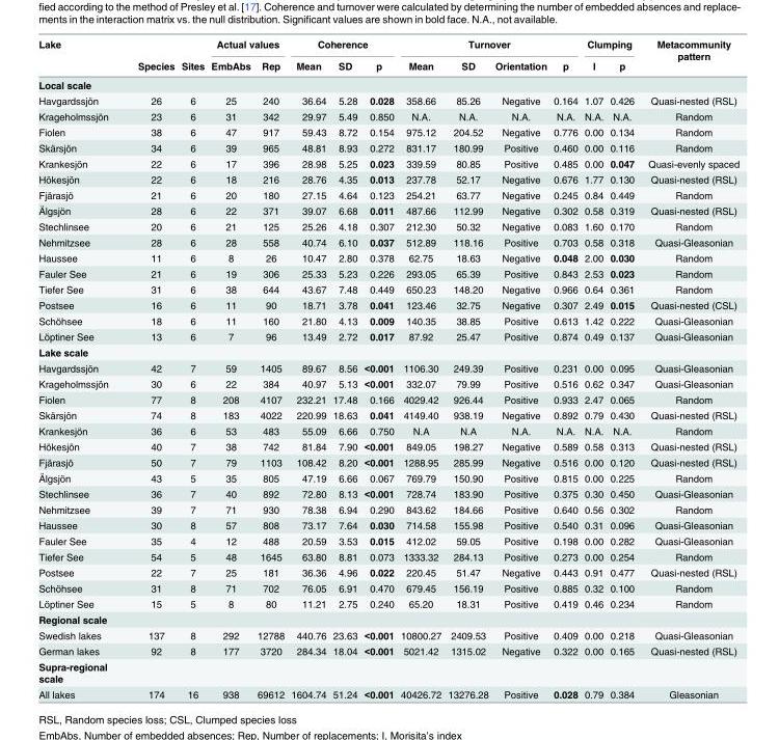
<table><thead><tr><td rowspan="2">Lake</td><td rowspan="2">Species</td><td rowspan="2">Sites</td><td colspan="2">Actual values</td><td colspan="3">Coherence</td><td colspan="4">Turnover</td><td colspan="2">Clumping</td><td rowspan="2">Metacommunity pattern</td></tr><tr><td>EmbAbs</td><td>Rep</td><td>Mean</td><td>SD</td><td>p</td><td>Mean</td><td>SD</td><td>Orientation</td><td>p</td><td>I</td><td>p</td></tr></thead><tbody><tr><td colspan="15">Local scale</td></tr><tr><td>Havgardssjön</td><td>26</td><td>6</td><td>25</td><td>240</td><td>36.64</td><td>5.28</td><td>0.028</td><td>358.66</td><td>85.26</td><td>Negative</td><td>0.164</td><td>1.07</td><td>0.426</td><td>Quasi-nested (RSL)</td></tr><tr><td>Krageholmssjön</td><td>23</td><td>6</td><td>31</td><td>342</td><td>29.97</td><td>5.49</td><td>0.850</td><td>N.A.</td><td>N.A.</td><td>N.A.</td><td>N.A.</td><td>N.A.</td><td>N.A.</td><td>Random</td></tr><tr><td>Fiolen</td><td>38</td><td>6</td><td>47</td><td>917</td><td>59.43</td><td>8.72</td><td>0.154</td><td>975.12</td><td>204.52</td><td>Negative</td><td>0.776</td><td>0.00</td><td>0.134</td><td>Random</td></tr><tr><td>Skärsjön</td><td>34</td><td>6</td><td>39</td><td>965</td><td>48.81</td><td>8.93</td><td>0.272</td><td>831.17</td><td>180.99</td><td>Positive</td><td>0.460</td><td>0.00</td><td>0.116</td><td>Random</td></tr><tr><td>Krankesjön</td><td>22</td><td>6</td><td>17</td><td>396</td><td>28.98</td><td>5.25</td><td>0.023</td><td>339.59</td><td>80.85</td><td>Positive</td><td>0.485</td><td>0.00</td><td>0.047</td><td>Quasi-evenly spaced</td></tr><tr><td>Hökesjön</td><td>22</td><td>6</td><td>18</td><td>216</td><td>28.76</td><td>4.35</td><td>0.013</td><td>237.78</td><td>52.17</td><td>Negative</td><td>0.676</td><td>1.77</td><td>0.130</td><td>Quasi-nested (RSL)</td></tr><tr><td>Fjärasjö</td><td>21</td><td>6</td><td>20</td><td>180</td><td>27.15</td><td>4.64</td><td>0.123</td><td>254.21</td><td>63.77</td><td>Negative</td><td>0.245</td><td>0.84</td><td>0.449</td><td>Random</td></tr><tr><td>Älgsjön</td><td>28</td><td>6</td><td>22</td><td>371</td><td>39.07</td><td>6.68</td><td>0.011</td><td>487.66</td><td>112.99</td><td>Negative</td><td>0.302</td><td>0.58</td><td>0.319</td><td>Quasi-nested (RSL)</td></tr><tr><td>Stechlinsee</td><td>20</td><td>6</td><td>21</td><td>125</td><td>25.26</td><td>4.18</td><td>0.307</td><td>212.30</td><td>50.32</td><td>Negative</td><td>0.083</td><td>1.60</td><td>0.170</td><td>Random</td></tr><tr><td>Nehmitzsee</td><td>28</td><td>6</td><td>28</td><td>558</td><td>40.74</td><td>6.10</td><td>0.037</td><td>512.89</td><td>118.16</td><td>Positive</td><td>0.703</td><td>0.58</td><td>0.318</td><td>Quasi-Gleasonian</td></tr><tr><td>Haussee</td><td>11</td><td>6</td><td>8</td><td>26</td><td>10.47</td><td>2.80</td><td>0.378</td><td>62.75</td><td>18.63</td><td>Negative</td><td>0.048</td><td>2.00</td><td>0.030</td><td>Random</td></tr><tr><td>Fauler See</td><td>21</td><td>6</td><td>19</td><td>306</td><td>25.33</td><td>5.23</td><td>0.226</td><td>293.05</td><td>65.39</td><td>Positive</td><td>0.843</td><td>2.53</td><td>0.023</td><td>Random</td></tr><tr><td>Tiefer See</td><td>31</td><td>6</td><td>38</td><td>644</td><td>43.67</td><td>7.48</td><td>0.449</td><td>650.23</td><td>148.20</td><td>Negative</td><td>0.966</td><td>0.64</td><td>0.361</td><td>Random</td></tr><tr><td>Postsee</td><td>16</td><td>6</td><td>11</td><td>90</td><td>18.71</td><td>3.78</td><td>0.041</td><td>123.46</td><td>32.75</td><td>Negative</td><td>0.307</td><td>2.49</td><td>0.015</td><td>Quasi-nested (CSL)</td></tr><tr><td>Schöhsee</td><td>18</td><td>6</td><td>11</td><td>160</td><td>21.80</td><td>4.13</td><td>0.009</td><td>140.35</td><td>38.85</td><td>Positive</td><td>0.613</td><td>1.42</td><td>0.222</td><td>Quasi-Gleasonian</td></tr><tr><td>Löptiner See</td><td>13</td><td>6</td><td>7</td><td>96</td><td>13.49</td><td>2.72</td><td>0.017</td><td>87.92</td><td>25.47</td><td>Positive</td><td>0.874</td><td>0.49</td><td>0.137</td><td>Quasi-Gleasonian</td></tr><tr><td colspan="15">Lake scale</td></tr><tr><td>Havgardssjön</td><td>42</td><td>7</td><td>59</td><td>1405</td><td>89.67</td><td>8.56</td><td>&lt;0.001</td><td>1106.30</td><td>249.39</td><td>Positive</td><td>0.231</td><td>0.00</td><td>0.095</td><td>Quasi-Gleasonian</td></tr><tr><td>Krageholmssjön</td><td>30</td><td>6</td><td>22</td><td>384</td><td>40.97</td><td>5.13</td><td>&lt;0.001</td><td>332.07</td><td>79.99</td><td>Positive</td><td>0.516</td><td>0.62</td><td>0.347</td><td>Quasi-Gleasonian</td></tr><tr><td>Fiolen</td><td>77</td><td>8</td><td>208</td><td>4107</td><td>232.21</td><td>17.48</td><td>0.166</td><td>4029.42</td><td>926.44</td><td>Positive</td><td>0.933</td><td>2.47</td><td>0.065</td><td>Random</td></tr><tr><td>Skärsjön</td><td>74</td><td>8</td><td>183</td><td>4022</td><td>220.99</td><td>18.63</td><td>0.041</td><td>4149.40</td><td>938.19</td><td>Negative</td><td>0.892</td><td>0.79</td><td>0.430</td><td>Quasi-nested (RSL)</td></tr><tr><td>Krankesjön</td><td>36</td><td>6</td><td>53</td><td>483</td><td>55.09</td><td>6.66</td><td>0.750</td><td>N.A</td><td>N.A</td><td>N.A.</td><td>N.A.</td><td>N.A.</td><td>N.A.</td><td>Random</td></tr><tr><td>Hökesjön</td><td>40</td><td>7</td><td>38</td><td>742</td><td>81.84</td><td>7.90</td><td>&lt;0.001</td><td>849.05</td><td>198.27</td><td>Negative</td><td>0.589</td><td>0.58</td><td>0.313</td><td>Quasi-nested (RSL)</td></tr><tr><td>Fjärasjö</td><td>50</td><td>7</td><td>79</td><td>1103</td><td>108.42</td><td>8.20</td><td>&lt;0.001</td><td>1288.95</td><td>285.99</td><td>Negative</td><td>0.516</td><td>0.00</td><td>0.120</td><td>Quasi-nested (RSL)</td></tr><tr><td>Älgsjön</td><td>43</td><td>5</td><td>35</td><td>805</td><td>47.19</td><td>6.66</td><td>0.067</td><td>769.79</td><td>150.90</td><td>Positive</td><td>0.815</td><td>0.00</td><td>0.225</td><td>Random</td></tr><tr><td>Stechlinsee</td><td>36</td><td>7</td><td>40</td><td>892</td><td>72.80</td><td>8.13</td><td>&lt;0.001</td><td>728.74</td><td>183.90</td><td>Positive</td><td>0.375</td><td>0.30</td><td>0.450</td><td>Quasi-Gleasonian</td></tr><tr><td>Nehmitzsee</td><td>39</td><td>7</td><td>71</td><td>930</td><td>78.38</td><td>6.94</td><td>0.290</td><td>843.62</td><td>184.66</td><td>Positive</td><td>0.640</td><td>0.56</td><td>0.302</td><td>Random</td></tr><tr><td>Haussee</td><td>30</td><td>8</td><td>57</td><td>808</td><td>73.17</td><td>7.64</td><td>0.030</td><td>714.58</td><td>155.98</td><td>Positive</td><td>0.540</td><td>0.31</td><td>0.096</td><td>Quasi-Gleasonian</td></tr><tr><td>Fauler See</td><td>35</td><td>4</td><td>12</td><td>488</td><td>20.59</td><td>3.53</td><td>0.015</td><td>412.02</td><td>59.05</td><td>Positive</td><td>0.198</td><td>0.00</td><td>0.282</td><td>Quasi-Gleasonian</td></tr><tr><td>Tiefer See</td><td>54</td><td>5</td><td>48</td><td>1645</td><td>63.80</td><td>8.81</td><td>0.073</td><td>1333.32</td><td>284.13</td><td>Positive</td><td>0.273</td><td>0.00</td><td>0.254</td><td>Random</td></tr><tr><td>Postsee</td><td>22</td><td>7</td><td>25</td><td>181</td><td>36.36</td><td>4.96</td><td>0.022</td><td>220.45</td><td>51.47</td><td>Negative</td><td>0.443</td><td>0.91</td><td>0.477</td><td>Quasi-nested (RSL)</td></tr><tr><td>Schöhsee</td><td>31</td><td>8</td><td>71</td><td>702</td><td>76.05</td><td>6.91</td><td>0.470</td><td>679.45</td><td>156.19</td><td>Positive</td><td>0.885</td><td>0.32</td><td>0.100</td><td>Random</td></tr><tr><td>Löptiner See</td><td>15</td><td>5</td><td>8</td><td>80</td><td>11.21</td><td>2.75</td><td>0.240</td><td>65.20</td><td>18.31</td><td>Positive</td><td>0.419</td><td>0.46</td><td>0.234</td><td>Random</td></tr><tr><td colspan="15">Regional scale</td></tr><tr><td>Swedish lakes</td><td>137</td><td>8</td><td>292</td><td>12788</td><td>440.76</td><td>23.63</td><td>&lt;0.001</td><td>10800.27</td><td>2409.53</td><td>Positive</td><td>0.409</td><td>0.00</td><td>0.218</td><td>Quasi-Gleasonian</td></tr><tr><td>German lakes</td><td>92</td><td>8</td><td>177</td><td>3720</td><td>284.34</td><td>18.04</td><td>&lt;0.001</td><td>5021.42</td><td>1315.02</td><td>Negative</td><td>0.322</td><td>0.00</td><td>0.165</td><td>Quasi-nested (RSL)</td></tr><tr><td colspan="15">Supra-regional scale</td></tr><tr><td>All lakes</td><td>174</td><td>16</td><td>938</td><td>69612</td><td>1604.74</td><td>51.24</td><td>&lt;0.001</td><td>40426.72</td><td>13276.28</td><td>Positive</td><td>0.028</td><td>0.79</td><td>0.384</td><td>Gleasonian</td></tr></tbody></table>